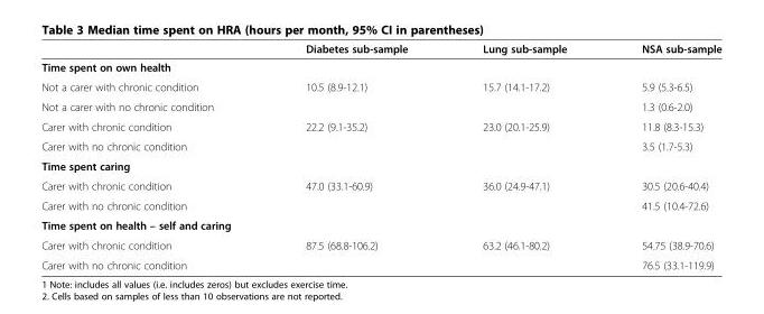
<table><thead><tr><td></td><td>Diabetes sub-sample</td><td>Lung sub-sample</td><td>NSA sub-sample</td></tr></thead><tbody><tr><td colspan="4">Time spent on own health</td></tr><tr><td>Not a carer with chronic condition</td><td>10.5 (8.9-12.1)</td><td>15.7 (14.1-17.2)</td><td>5.9 (5.3-6.5)</td></tr><tr><td>Not a carer with no chronic condition</td><td></td><td></td><td>1.3 (0.6-2.0)</td></tr><tr><td>Carer with chronic condition</td><td>22.2 (9.1-35.2)</td><td>23.0 (20.1-25.9)</td><td>11.8 (8.3-15.3)</td></tr><tr><td>Carer with no chronic condition</td><td></td><td></td><td>3.5 (1.7-5.3)</td></tr><tr><td colspan="4">Time spent caring</td></tr><tr><td>Carer with chronic condition</td><td>47.0 (33.1-60.9)</td><td>36.0 (24.9-47.1)</td><td>30.5 (20.6-40.4)</td></tr><tr><td>Carer with no chronic condition</td><td></td><td></td><td>41.5 (10.4-72.6)</td></tr><tr><td colspan="4">Time spent on health – self and caring</td></tr><tr><td>Carer with chronic condition</td><td>87.5 (68.8-106.2)</td><td>63.2 (46.1-80.2)</td><td>54.75 (38.9-70.6)</td></tr><tr><td>Carer with no chronic condition</td><td></td><td></td><td>76.5 (33.1-119.9)</td></tr></tbody></table>